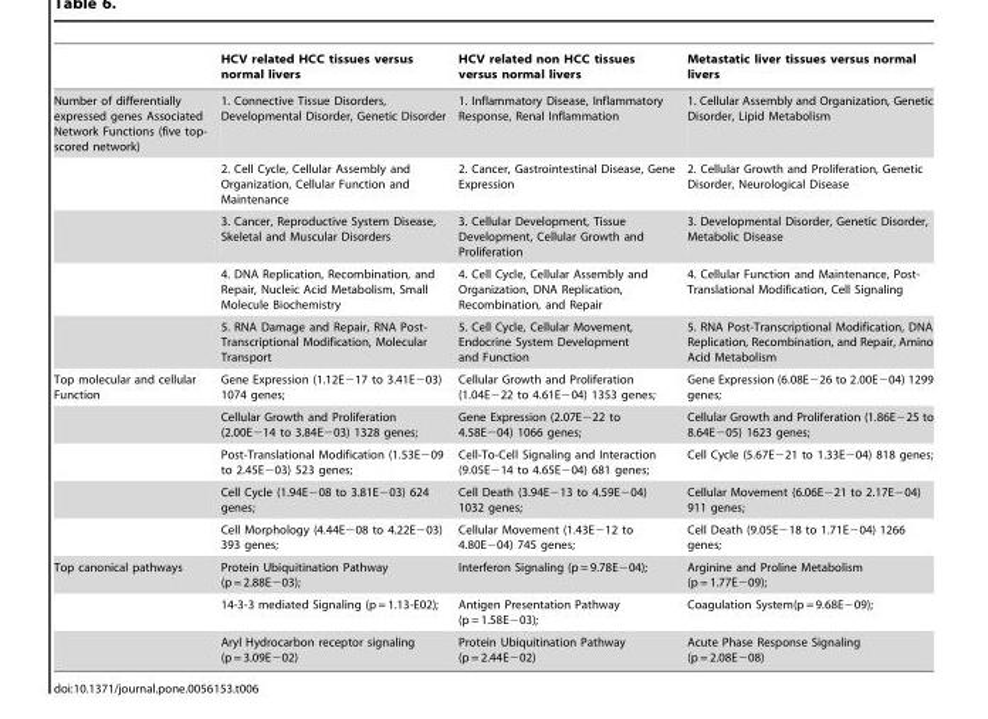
<table><thead><tr><td></td><td>HCV related HCC tissues versus normal livers</td><td>HCV related non HCC tissues versus normal livers</td><td>Metastatic liver tissues versus normal livers</td></tr></thead><tbody><tr><td rowspan="5">Number of differentially expressed genes Associated Network Functions (five top- scored network)</td><td>1. Connective Tissue Disorders, Developmental Disorder, Genetic Disorder</td><td>1. Inflammatory Disease, Inflammatory Response, Renal Inflammation</td><td>1. Cellular Assembly and Organization, Genetic Disorder, Lipid Metabolism</td></tr><tr><td>2. Cell Cycle, Cellular Assembly and Organization, Cellular Function and Maintenance</td><td>2. Cancer, Gastrointestinal Disease, Gene Expression</td><td>2. Cellular Growth and Proliferation, Genetic Disorder, Neurological Disease</td></tr><tr><td>3. Cancer, Reproductive System Disease, Skeletal and Muscular Disorders</td><td>3. Cellular Development, Tissue Development, Cellular Growth and Proliferation</td><td>3. Developmental Disorder, Genetic Disorder, Metabolic Disease</td></tr><tr><td>4. DNA Replication, Recombination, and Repair, Nucleic Acid Metabolism, Small Molecule Biochemistry</td><td>4. Cell Cycle, Cellular Assembly and Organization, DNA Replication, Recombination, and Repair</td><td>4. Cellular Function and Maintenance, Post- Translational Modification, Cell Signaling</td></tr><tr><td>5. RNA Damage and Repair, RNA Post- Transcriptional Modification, Molecular Transport</td><td>5. Cell Cycle, Cellular Movement, Endocrine System Development and Function</td><td>5. RNA Post-Transcriptional Modification, DNA Replication, Recombination, and Repair, Amino Acid Metabolism</td></tr><tr><td rowspan="5">Top molecular and cellular Function</td><td>Gene Expression (1.12E−17 to 3.41E−03) 1074 genes;</td><td>Cellular Growth and Proliferation (1.04E−22 to 4.61E−04) 1353 genes;</td><td>Gene Expression (6.08E−26 to 2.00E−04) 1299 genes;</td></tr><tr><td>Cellular Growth and Proliferation (2.00E−14 to 3.84E−03) 1328 genes;</td><td>Gene Expression (2.07E−22 to 4.58E−04) 1066 genes;</td><td>Cellular Growth and Proliferation (1.86E−25 to 8.64E−05) 1623 genes;</td></tr><tr><td>Post-Translational Modification (1.53E−09 to 2.45E−03) 523 genes;</td><td>Cell-To-Cell Signaling and Interaction (9.05E−14 to 4.65E−04) 681 genes;</td><td>Cell Cycle (5.67E−21 to 1.33E−04) 818 genes;</td></tr><tr><td>Cell Cycle (1.94E−08 to 3.81E−03) 624 genes;</td><td>Cell Death (3.94E−13 to 4.59E−04) 1032 genes;</td><td>Cellular Movement (6.06E−21 to 2.17E−04) 911 genes;</td></tr><tr><td>Cell Morphology (4.44E−08 to 4.22E−03) 393 genes;</td><td>Cellular Movement (1.43E−12 to 4.80E−04) 745 genes;</td><td>Cell Death (9.05E−18 to 1.71E−04) 1266 genes;</td></tr><tr><td rowspan="3">Top canonical pathways</td><td>Protein Ubiquitination Pathway (p = 2.88E−03);</td><td>Interferon Signaling (p = 9.78E−04);</td><td>Arginine and Proline Metabolism (p = 1.77E−09);</td></tr><tr><td>14-3-3 mediated Signaling (p = 1.13-E02);</td><td>Antigen Presentation Pathway (p = 1.58E−03);</td><td>Coagulation System(p = 9.68E−09);</td></tr><tr><td>Aryl Hydrocarbon receptor signaling (p = 3.09E−02)</td><td>Protein Ubiquitination Pathway (p = 2.44E−02)</td><td>Acute Phase Response Signaling (p = 2.08E−08)</td></tr></tbody></table>